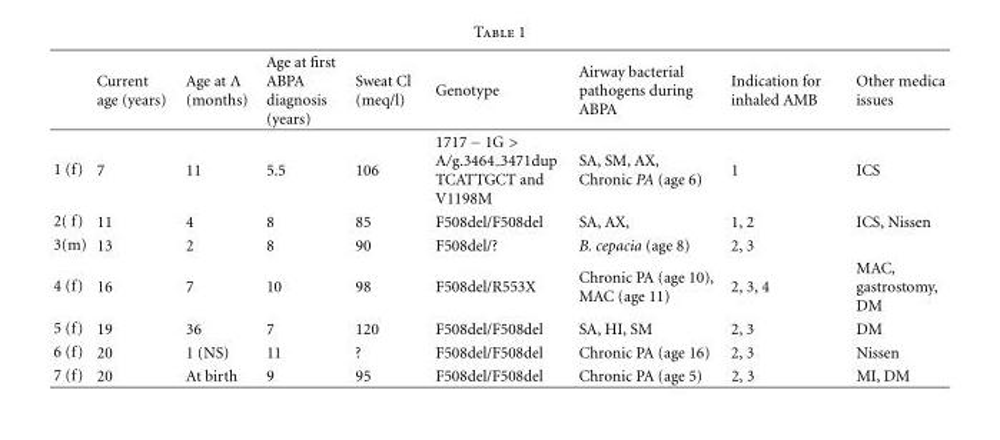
<table><thead><tr><td></td><td>Current age (years)</td><td>Age at Λ (months)</td><td>Age at first ABPA diagnosis (years)</td><td>Sweat Cl (meq/l)</td><td>Genotype</td><td>Airway bacterial pathogens during ABPA</td><td>Indication for inhaled AMB</td><td>Other medica issues</td></tr></thead><tbody><tr><td>1 (f)</td><td>7</td><td>11</td><td>5.5</td><td>106</td><td>1717 − 1G &gt; A/g.3464 3471dup TCATTGCT and V1198M</td><td>SA, SM, AX, Chronic PA (age 6)</td><td>1</td><td>ICS</td></tr><tr><td>2( f)</td><td>11</td><td>4</td><td>8</td><td>85</td><td>F508del/F508del</td><td>SA, AX,</td><td>1, 2</td><td>ICS, Nissen</td></tr><tr><td>3(m)</td><td>13</td><td>2</td><td>8</td><td>90</td><td>F508del/?</td><td>B. cepacia (age 8)</td><td>2, 3</td><td></td></tr><tr><td>4 (f)</td><td>16</td><td>7</td><td>10</td><td>98</td><td>F508del/R553X</td><td>Chronic PA (age 10), MAC (age 11)</td><td>2, 3, 4</td><td>MAC, gastrostomy, DM</td></tr><tr><td>5 (f)</td><td>19</td><td>36</td><td>7</td><td>120</td><td>F508del/F508del</td><td>SA, HI, SM</td><td>2, 3</td><td>DM</td></tr><tr><td>6 (f)</td><td>20</td><td>1 (NS)</td><td>11</td><td>?</td><td>F508del/F508del</td><td>Chronic PA (age 16)</td><td>2, 3</td><td>Nissen</td></tr><tr><td>7 (f)</td><td>20</td><td>At birth</td><td>9</td><td>95</td><td>F508del/F508del</td><td>Chronic PA (age 5)</td><td>2, 3</td><td>MI, DM</td></tr></tbody></table>